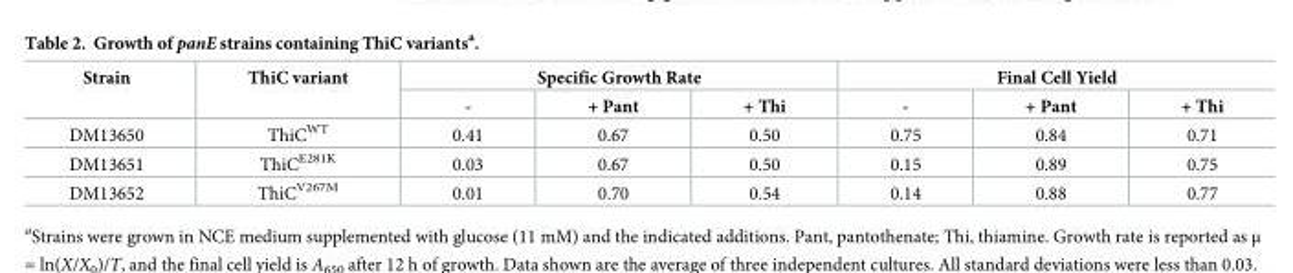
<table><thead><tr><td rowspan="2">Strain</td><td rowspan="2">ThiC variant</td><td colspan="3">Specific Growth Rate</td><td colspan="3">Final Cell Yield</td></tr><tr><td>-</td><td>+ Pant</td><td>+ Thi</td><td>-</td><td>+ Pant</td><td>+ Thi</td></tr></thead><tbody><tr><td>DM13650</td><td>ThiC<sup>WT</sup></td><td>0.41</td><td>0.67</td><td>0.50</td><td>0.75</td><td>0.84</td><td>0.71</td></tr><tr><td>DM13651</td><td>ThiC<sup>E281K</sup></td><td>0.03</td><td>0.67</td><td>0.50</td><td>0.15</td><td>0.89</td><td>0.75</td></tr><tr><td>DM13652</td><td>ThiC<sup>V267M</sup></td><td>0.01</td><td>0.70</td><td>0.54</td><td>0.14</td><td>0.88</td><td>0.77</td></tr></tbody></table>